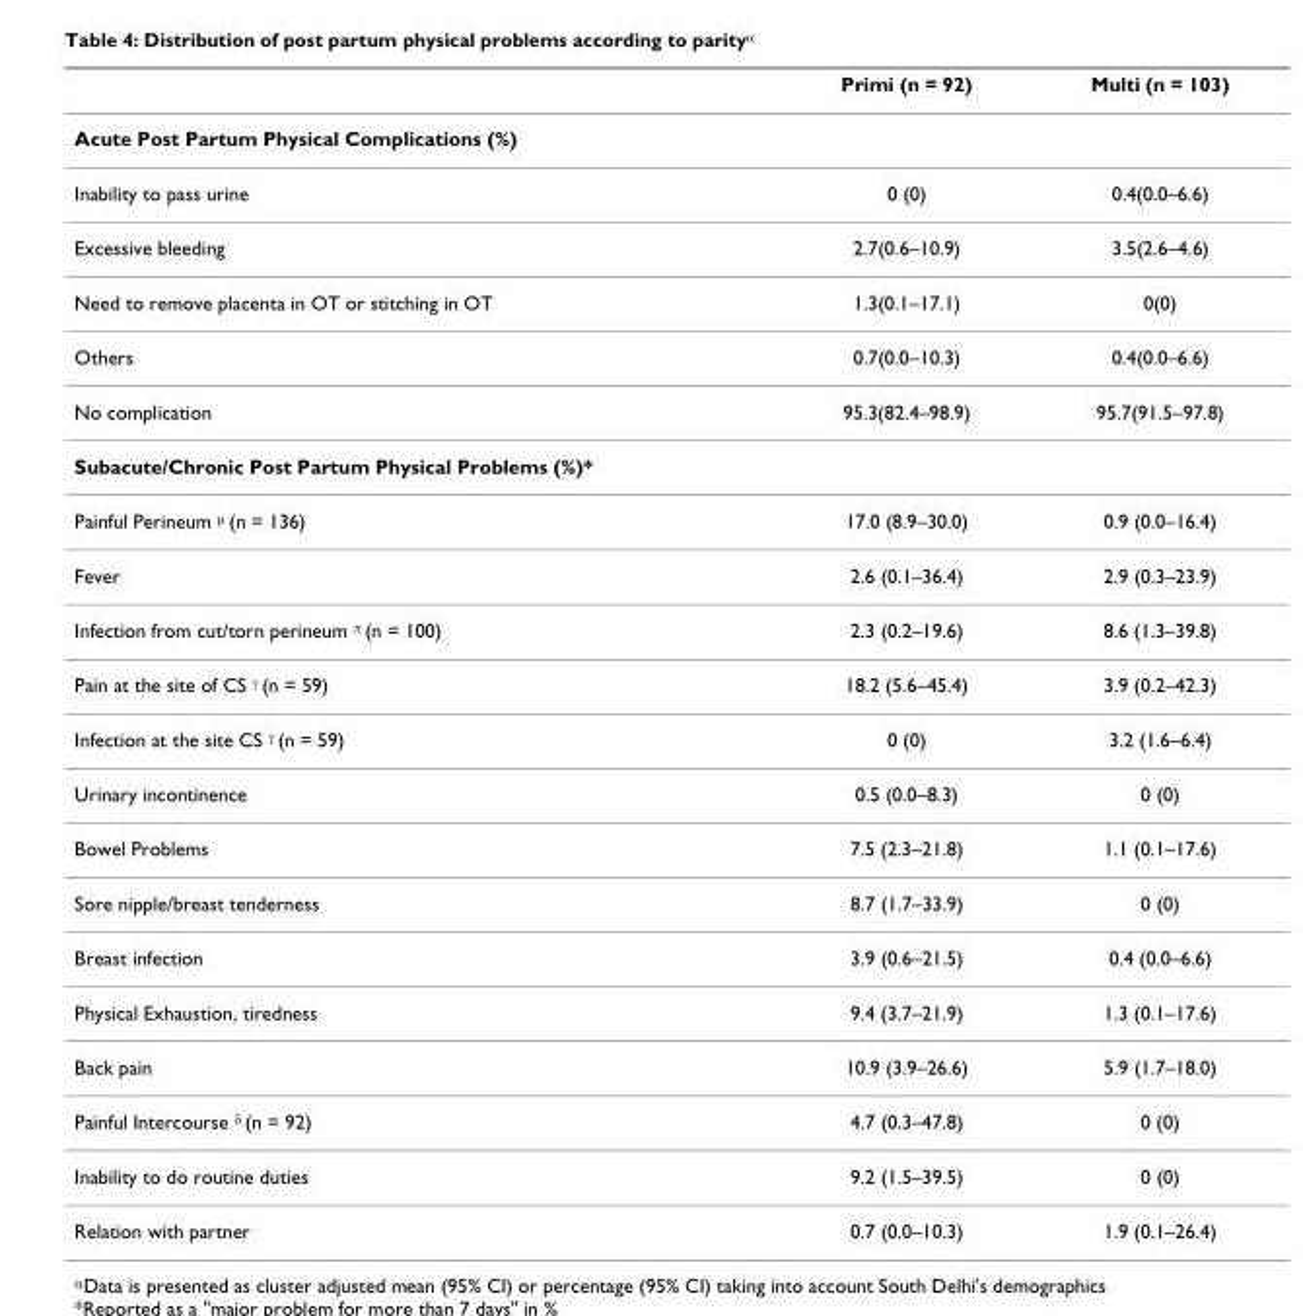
<table><thead><tr><td></td><td>Primi (n = 92)</td><td>Multi (n = 103)</td></tr></thead><tbody><tr><td colspan="3">Acute Post Partum Physical Complications (%)</td></tr><tr><td>Inability to pass urine</td><td>0 (0)</td><td>0.4(0.0–6.6)</td></tr><tr><td>Excessive bleeding</td><td>2.7(0.6–10.9)</td><td>3.5(2.6–4.6)</td></tr><tr><td>Need to remove placenta in OT or stitching in OT</td><td>1.3(0.1–17.1)</td><td>0(0)</td></tr><tr><td>Others</td><td>0.7(0.0–10.3)</td><td>0.4(0.0–6.6)</td></tr><tr><td>No complication</td><td>95.3(82.4–98.9)</td><td>95.7(91.5–97.8)</td></tr><tr><td colspan="3">Subacute/Chronic Post Partum Physical Problems (%)*</td></tr><tr><td>Painful Perineum <sup>μ</sup> (n = 136)</td><td>17.0 (8.9–30.0)</td><td>0.9 (0.0–16.4)</td></tr><tr><td>Fever</td><td>2.6 (0.1–36.4)</td><td>2.9 (0.3–23.9)</td></tr><tr><td>Infection from cut/torn perineum <sup>π</sup> (n = 100)</td><td>2.3 (0.2–19.6)</td><td>8.6 (1.3–39.8)</td></tr><tr><td>Pain at the site of CS <sup>γ</sup> (n = 59)</td><td>18.2 (5.6–45.4)</td><td>3.9 (0.2–42.3)</td></tr><tr><td>Infection at the site CS <sup>γ</sup> (n = 59)</td><td>0 (0)</td><td>3.2 (1.6–6.4)</td></tr><tr><td>Urinary incontinence</td><td>0.5 (0.0–8.3)</td><td>0 (0)</td></tr><tr><td>Bowel Problems</td><td>7.5 (2.3–21.8)</td><td>1.1 (0.1–17.6)</td></tr><tr><td>Sore nipple/breast tenderness</td><td>8.7 (1.7–33.9)</td><td>0 (0)</td></tr><tr><td>Breast infection</td><td>3.9 (0.6–21.5)</td><td>0.4 (0.0–6.6)</td></tr><tr><td>Physical Exhaustion, tiredness</td><td>9.4 (3.7–21.9)</td><td>1.3 (0.1–17.6)</td></tr><tr><td>Back pain</td><td>10.9 (3.9–26.6)</td><td>5.9 (1.7–18.0)</td></tr><tr><td>Painful Intercourse <sup>δ</sup> (n = 92)</td><td>4.7 (0.3–47.8)</td><td>0 (0)</td></tr><tr><td>Inability to do routine duties</td><td>9.2 (1.5–39.5)</td><td>0 (0)</td></tr><tr><td>Relation with partner</td><td>0.7 (0.0–10.3)</td><td>1.9 (0.1–26.4)</td></tr></tbody></table>